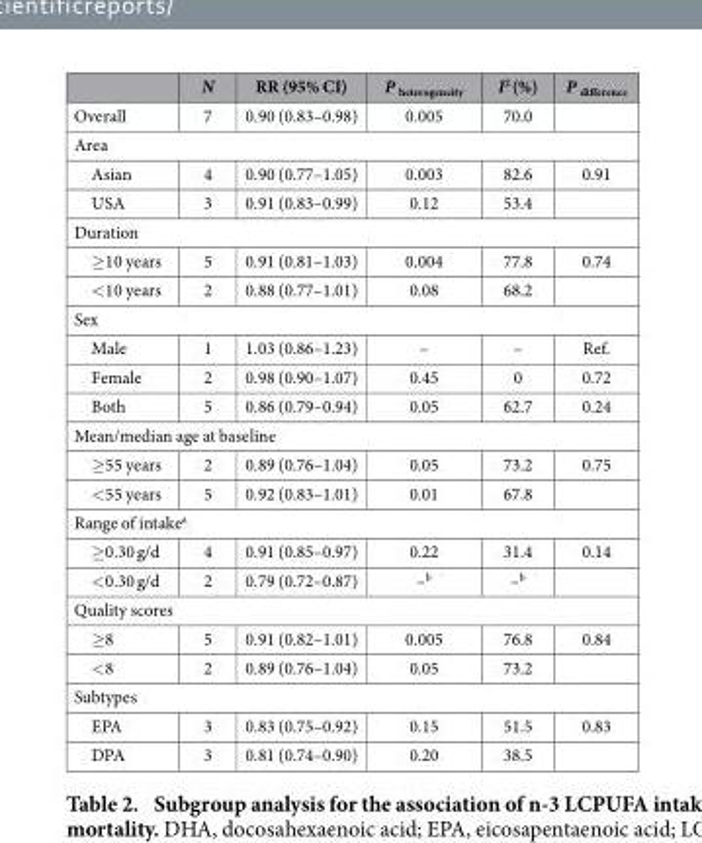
<table><thead><tr><td></td><td>N</td><td>RR (95% CI)</td><td>P <sub>heterogeneity</sub></td><td>I<sup>2</sup> (%)</td><td>P <sub>difference</sub></td></tr></thead><tbody><tr><td>Overall</td><td>7</td><td>0.90 (0.83–0.98)</td><td>0.005</td><td>70.0</td><td></td></tr><tr><td colspan="6">Area</td></tr><tr><td>Asian</td><td>4</td><td>0.90 (0.77–1.05)</td><td>0.003</td><td>82.6</td><td>0.91</td></tr><tr><td>USA</td><td>3</td><td>0.91 (0.83–0.99)</td><td>0.12</td><td>53.4</td><td></td></tr><tr><td colspan="6">Duration</td></tr><tr><td>≥ 10 years</td><td>5</td><td>0.91 (0.81–1.03)</td><td>0.004</td><td>77.8</td><td>0.74</td></tr><tr><td>&lt; 10 years</td><td>2</td><td>0.88 (0.77–1.01)</td><td>0.08</td><td>68.2</td><td></td></tr><tr><td colspan="6">Sex</td></tr><tr><td>Male</td><td>1</td><td>1.03 (0.86–1.23)</td><td>–</td><td>–</td><td>Ref.</td></tr><tr><td>Female</td><td>2</td><td>0.98 (0.90–1.07)</td><td>0.45</td><td>0</td><td>0.72</td></tr><tr><td>Both</td><td>5</td><td>0.86 (0.79–0.94)</td><td>0.05</td><td>62.7</td><td>0.24</td></tr><tr><td colspan="6">Mean/median age at baseline</td></tr><tr><td>≥ 55 years</td><td>2</td><td>0.89 (0.76–1.04)</td><td>0.05</td><td>73.2</td><td>0.75</td></tr><tr><td>&lt; 55 years</td><td>5</td><td>0.92 (0.83–1.01)</td><td>0.01</td><td>67.8</td><td></td></tr><tr><td colspan="6">Range of intake<sup>a</sup></td></tr><tr><td>≥ 0.30 g/d</td><td>4</td><td>0.91 (0.85–0.97)</td><td>0.22</td><td>31.4</td><td>0.14</td></tr><tr><td>&lt; 0.30 g/d</td><td>2</td><td>0.79 (0.72–0.87)</td><td>–b</td><td>–b</td><td></td></tr><tr><td colspan="6">Quality scores</td></tr><tr><td>≥ 8</td><td>5</td><td>0.91 (0.82–1.01)</td><td>0.005</td><td>76.8</td><td>0.84</td></tr><tr><td>&lt; 8</td><td>2</td><td>0.89 (0.76–1.04)</td><td>0.05</td><td>73.2</td><td></td></tr><tr><td colspan="6">Subtypes</td></tr><tr><td>EPA</td><td>3</td><td>0.83 (0.75–0.92)</td><td>0.15</td><td>51.5</td><td>0.83</td></tr><tr><td>DPA</td><td>3</td><td>0.81 (0.74–0.90)</td><td>0.20</td><td>38.5</td><td></td></tr></tbody></table>